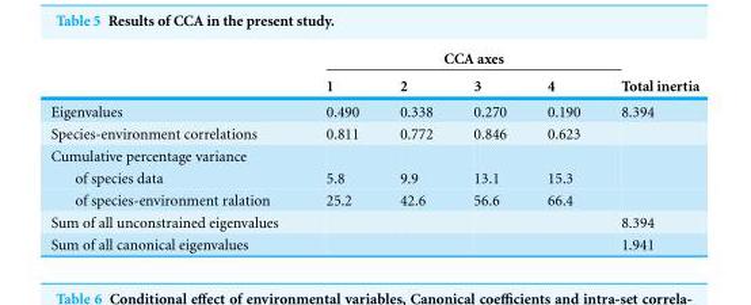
<table><thead><tr><td rowspan="2"></td><td colspan="4">CCA axes</td><td rowspan="2">Total inertia</td></tr><tr><td>1</td><td>2</td><td>3</td><td>4</td></tr></thead><tbody><tr><td>Eigenvalues</td><td>0.490</td><td>0.338</td><td>0.270</td><td>0.190</td><td>8.394</td></tr><tr><td>Species-environment correlations</td><td>0.811</td><td>0.772</td><td>0.846</td><td>0.623</td><td></td></tr><tr><td colspan="6">Cumulative percentage variance</td></tr><tr><td>of species data</td><td>5.8</td><td>9.9</td><td>13.1</td><td>15.3</td><td></td></tr><tr><td>of species-environment ralation</td><td>25.2</td><td>42.6</td><td>56.6</td><td>66.4</td><td></td></tr><tr><td>Sum of all unconstrained eigenvalues</td><td></td><td></td><td></td><td></td><td>8.394</td></tr><tr><td>Sum of all canonical eigenvalues</td><td></td><td></td><td></td><td></td><td>1.941</td></tr></tbody></table>